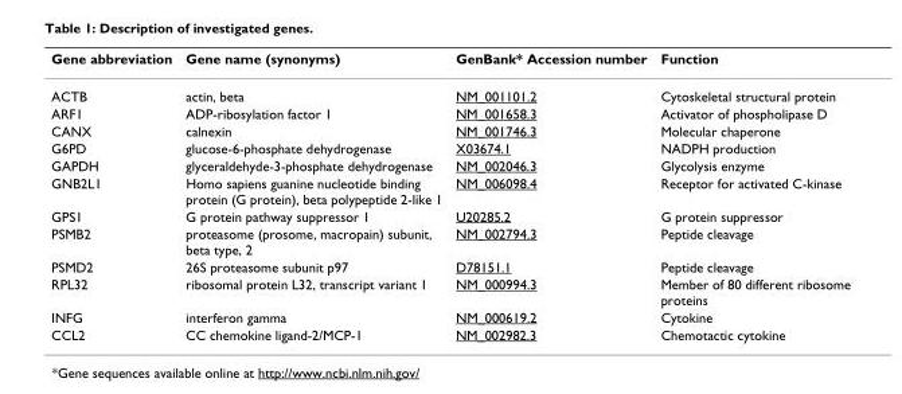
<table><thead><tr><td>Gene abbreviation</td><td>Gene name (synonyms)</td><td>GenBank* Accession number</td><td>Function</td></tr></thead><tbody><tr><td>ACTB</td><td>actin, beta</td><td>NM_001101.2</td><td>Cytoskeletal structural protein</td></tr><tr><td>ARF1</td><td>ADP-ribosylation factor 1</td><td>NM_001658.3</td><td>Activator of phospholipase D</td></tr><tr><td>CANX</td><td>calnexin</td><td>NM_001746.3</td><td>Molecular chaperone</td></tr><tr><td>G6PD</td><td>glucose-6-phosphate dehydrogenase</td><td>X03674.1</td><td>NADPH production</td></tr><tr><td>GAPDH</td><td>glyceraldehyde-3-phosphate dehydrogenase</td><td>NM_002046.3</td><td>Glycolysis enzyme</td></tr><tr><td>GNB2L1</td><td>Homo sapiens guanine nucleotide binding protein (G protein), beta polypeptide 2-like 1</td><td>NM_006098.4</td><td>Receptor for activated C-kinase</td></tr><tr><td>GPS1</td><td>G protein pathway suppressor 1</td><td>U20285.2</td><td>G protein suppressor</td></tr><tr><td>PSMB2</td><td>proteasome (prosome, macropain) subunit, beta type, 2</td><td>NM_002794.3</td><td>Peptide cleavage</td></tr><tr><td>PSMD2</td><td>26S proteasome subunit p97</td><td>D78151.1</td><td>Peptide cleavage</td></tr><tr><td>RPL32</td><td>ribosomal protein L32, transcript variant 1</td><td>NM_000994.3</td><td>Member of 80 different ribosome proteins</td></tr><tr><td>INFG</td><td>interferon gamma</td><td>NM_000619.2</td><td>Cytokine</td></tr><tr><td>CCL2</td><td>CC chemokine ligand-2/MCP-1</td><td>NM_002982.3</td><td>Chemotactic cytokine</td></tr></tbody></table>